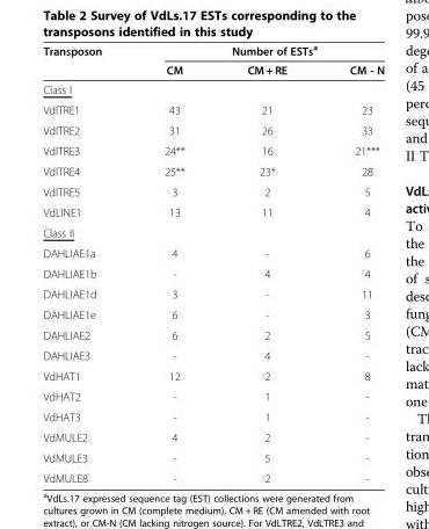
<table><thead><tr><td rowspan="2">Transposon</td><td colspan="3">Number of ESTs<sup>a</sup></td></tr><tr><td>CM</td><td>CM + RE</td><td>CM - N</td></tr></thead><tbody><tr><td colspan="4">Class I</td></tr><tr><td>VdlTRE1</td><td>43</td><td>21</td><td>23</td></tr><tr><td>VdlTRE2</td><td>31</td><td>26</td><td>33</td></tr><tr><td>VdlTRE3</td><td>24**</td><td>16</td><td>21***</td></tr><tr><td>VdlTRE4</td><td>25**</td><td>23*</td><td>28</td></tr><tr><td>VdlTRE5</td><td>3</td><td>2</td><td>5</td></tr><tr><td>VdLINE1</td><td>13</td><td>11</td><td>4</td></tr><tr><td colspan="4">Class II</td></tr><tr><td>DAHLIAE1a</td><td>4</td><td>-</td><td>6</td></tr><tr><td>DAHLIAE1b</td><td>-</td><td>4</td><td>4</td></tr><tr><td>DAHLIAE1d</td><td>3</td><td>-</td><td>11</td></tr><tr><td>DAHLIAE1e</td><td>6</td><td>-</td><td>3</td></tr><tr><td>DAHLIAE2</td><td>6</td><td>2</td><td>5</td></tr><tr><td>DAHLIAE3</td><td>-</td><td>4</td><td>-</td></tr><tr><td>VdHAT1</td><td>12</td><td>2</td><td>8</td></tr><tr><td>VdHAT2</td><td>-</td><td>1</td><td>-</td></tr><tr><td>VdHAT3</td><td>-</td><td>1</td><td>-</td></tr><tr><td>VdMULE2</td><td>4</td><td>2</td><td>-</td></tr><tr><td>VdMULE3</td><td>-</td><td>5</td><td>-</td></tr><tr><td>VdMULE8</td><td>-</td><td>2</td><td>-</td></tr></tbody></table>